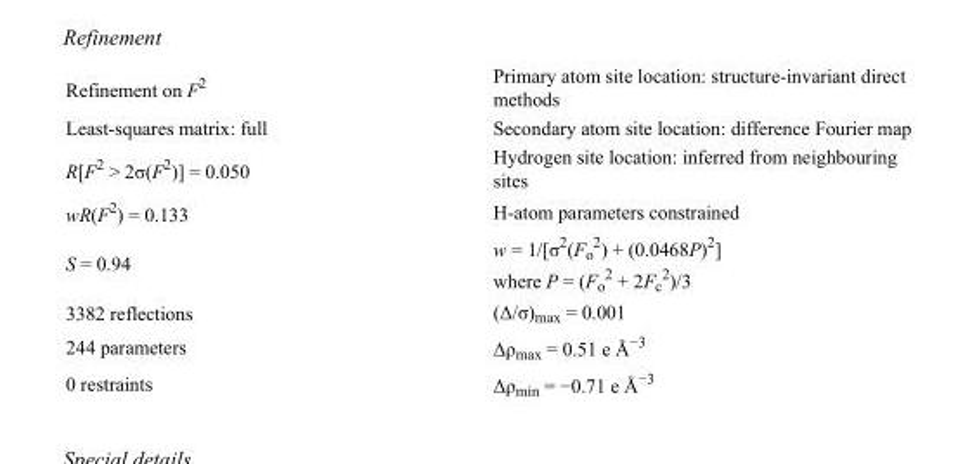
<table><tbody><tr><td>Refinement on F<sup>2</sup></td><td>Primary atom site location: structure-invariant direct methods</td></tr><tr><td>Least-squares matrix: full</td><td>Secondary atom site location: difference Fourier map</td></tr><tr><td>R[F<sup>2</sup> &gt; 2σ(F<sup>2</sup>)] = 0.050</td><td>Hydrogen site location: inferred from neighbouring sites</td></tr><tr><td>wR(F<sup>2</sup>) = 0.133</td><td>H-atom parameters constrained</td></tr><tr><td>S = 0.94</td><td>w = 1/[σ<sup>2</sup>(F<sub>o</sub> <sup>2</sup>) + (0.0468P)<sup>2</sup>] where P = (F<sub>o</sub> <sup>2</sup> + 2F<sub>c</sub> <sup>2</sup>)/3</td></tr><tr><td>3382 reflections</td><td>(Δ/σ)<sub>max</sub> = 0.001</td></tr><tr><td>244 parameters</td><td>Δρ<sub>max</sub> = 0.51 e Å<sup>−3</sup></td></tr><tr><td>0 restraints</td><td>Δρ<sub>min</sub> = −0.71 e Å<sup>−3</sup></td></tr></tbody></table>